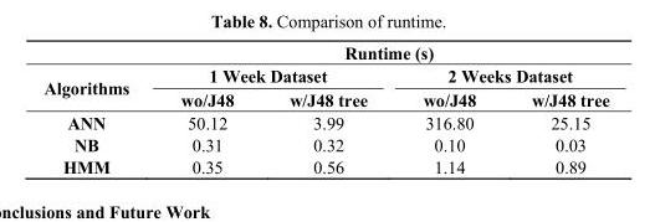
<table><thead><tr><td rowspan="3">Algorithms</td><td colspan="4">Runtime (s)</td></tr><tr><td colspan="2">1 Week Dataset</td><td colspan="2">2 Weeks Dataset</td></tr><tr><td>wo/J48</td><td>w/J48 tree</td><td>wo/J48</td><td>w/J48 tree</td></tr></thead><tbody><tr><td>ANN</td><td>50.12</td><td>3.99</td><td>316.80</td><td>25.15</td></tr><tr><td>NB</td><td>0.31</td><td>0.32</td><td>0.10</td><td>0.03</td></tr><tr><td>HMM</td><td>0.35</td><td>0.56</td><td>1.14</td><td>0.89</td></tr></tbody></table>